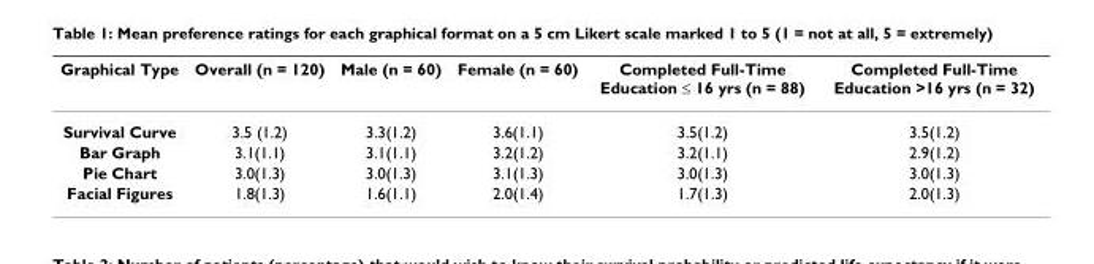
<table><thead><tr><td>Graphical Type</td><td>Overall (n = 120)</td><td>Male (n = 60)</td><td>Female (n = 60)</td><td>Completed Full-Time Education ≤ 16 yrs (n = 88)</td><td>Completed Full-Time Education &gt;16 yrs (n = 32)</td></tr></thead><tbody><tr><td>Survival Curve</td><td>3.5 (1.2)</td><td>3.3(1.2)</td><td>3.6(1.1)</td><td>3.5(1.2)</td><td>3.5(1.2)</td></tr><tr><td>Bar Graph</td><td>3.1(1.1)</td><td>3.1(1.1)</td><td>3.2(1.2)</td><td>3.2(1.1)</td><td>2.9(1.2)</td></tr><tr><td>Pie Chart</td><td>3.0(1.3)</td><td>3.0(1.3)</td><td>3.1(1.3)</td><td>3.0(1.3)</td><td>3.0(1.3)</td></tr><tr><td>Facial Figures</td><td>1.8(1.3)</td><td>1.6(1.1)</td><td>2.0(1.4)</td><td>1.7(1.3)</td><td>2.0(1.3)</td></tr></tbody></table>